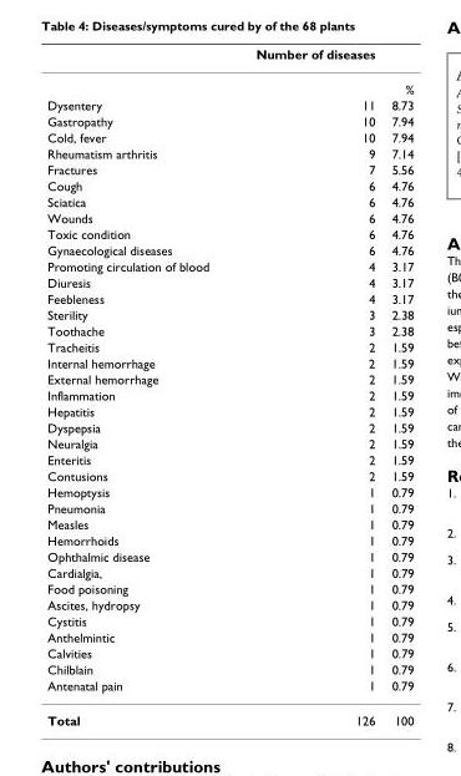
<table><thead><tr><td rowspan="2"></td><td colspan="2">Number of diseases</td></tr><tr><td></td><td>%</td></tr></thead><tbody><tr><td>Dysentery</td><td>11</td><td>8.73</td></tr><tr><td>Gastropathy</td><td>10</td><td>7.94</td></tr><tr><td>Cold, fever</td><td>10</td><td>7.94</td></tr><tr><td>Rheumatism arthritis</td><td>9</td><td>7.14</td></tr><tr><td>Fractures</td><td>7</td><td>5.56</td></tr><tr><td>Cough</td><td>6</td><td>4.76</td></tr><tr><td>Sciatica</td><td>6</td><td>4.76</td></tr><tr><td>Wounds</td><td>6</td><td>4.76</td></tr><tr><td>Toxic condition</td><td>6</td><td>4.76</td></tr><tr><td>Gynaecological diseases</td><td>6</td><td>4.76</td></tr><tr><td>Promoting circulation of blood</td><td>4</td><td>3.17</td></tr><tr><td>Diuresis</td><td>4</td><td>3.17</td></tr><tr><td>Feebleness</td><td>4</td><td>3.17</td></tr><tr><td>Sterility</td><td>3</td><td>2.38</td></tr><tr><td>Toothache</td><td>3</td><td>2.38</td></tr><tr><td>Tracheitis</td><td>2</td><td>1.59</td></tr><tr><td>Internal hemorrhage</td><td>2</td><td>1.59</td></tr><tr><td>External hemorrhage</td><td>2</td><td>1.59</td></tr><tr><td>Inflammation</td><td>2</td><td>1.59</td></tr><tr><td>Hepatitis</td><td>2</td><td>1.59</td></tr><tr><td>Dyspepsia</td><td>2</td><td>1.59</td></tr><tr><td>Neuralgia</td><td>2</td><td>1.59</td></tr><tr><td>Enteritis</td><td>2</td><td>1.59</td></tr><tr><td>Contusions</td><td>2</td><td>1.59</td></tr><tr><td>Hemoptysis</td><td>1</td><td>0.79</td></tr><tr><td>Pneumonia</td><td>1</td><td>0.79</td></tr><tr><td>Measles</td><td>1</td><td>0.79</td></tr><tr><td>Hemorrhoids</td><td>1</td><td>0.79</td></tr><tr><td>Ophthalmic disease</td><td>1</td><td>0.79</td></tr><tr><td>Cardialgia,</td><td>1</td><td>0.79</td></tr><tr><td>Food poisoning</td><td>1</td><td>0.79</td></tr><tr><td>Ascites, hydropsy</td><td>1</td><td>0.79</td></tr><tr><td>Cystitis</td><td>1</td><td>0.79</td></tr><tr><td>Anthelmintic</td><td>1</td><td>0.79</td></tr><tr><td>Calvities</td><td>1</td><td>0.79</td></tr><tr><td>Chilblain</td><td>1</td><td>0.79</td></tr><tr><td>Antenatal pain</td><td>1</td><td>0.79</td></tr><tr><td>Total</td><td>126</td><td>100</td></tr></tbody></table>